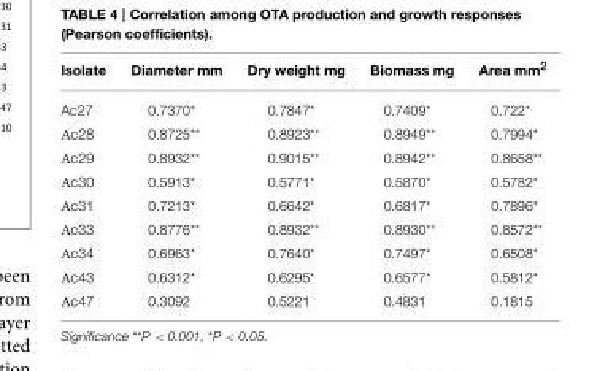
<table><thead><tr><td>Isolate</td><td>Diameter mm</td><td>Dry weight mg</td><td>Biomass mg</td><td>Area mm<sup>2</sup></td></tr></thead><tbody><tr><td>Ac27</td><td>0.7370*</td><td>0.7847*</td><td>0.7409*</td><td>0.722*</td></tr><tr><td>Ac28</td><td>0.8725**</td><td>0.8923**</td><td>0.8949**</td><td>0.7994*</td></tr><tr><td>Ac29</td><td>0.8932**</td><td>0.9015**</td><td>0.8942**</td><td>0.8658**</td></tr><tr><td>Ac30</td><td>0.5913*</td><td>0.5771*</td><td>0.5870*</td><td>0.5782*</td></tr><tr><td>Ac31</td><td>0.7213*</td><td>0.6642*</td><td>0.6817*</td><td>0.7896*</td></tr><tr><td>Ac33</td><td>0.8776**</td><td>0.8932**</td><td>0.8930**</td><td>0.8572**</td></tr><tr><td>Ac34</td><td>0.6963*</td><td>0.7640*</td><td>0.7497*</td><td>0.6508*</td></tr><tr><td>Ac43</td><td>0.6312*</td><td>0.6295*</td><td>0.6577*</td><td>0.5812*</td></tr><tr><td>Ac47</td><td>0.3092</td><td>0.5221</td><td>0.4831</td><td>0.1815</td></tr></tbody></table>